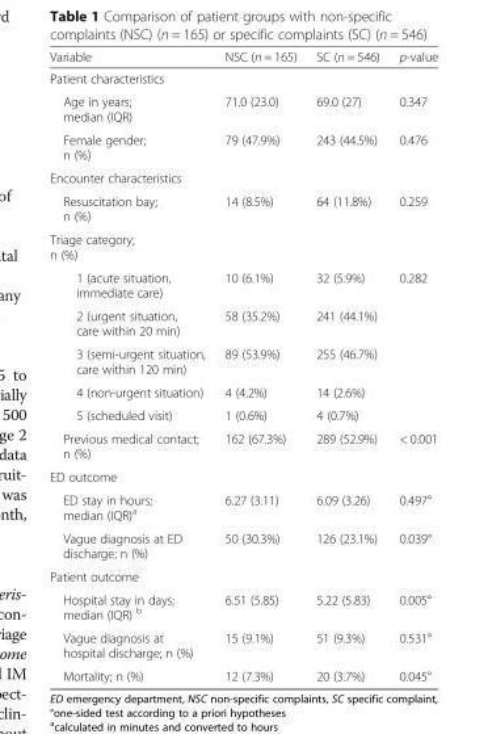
<table><thead><tr><td>Variable</td><td>NSC (n = 165)</td><td>SC (n = 546)</td><td>p-value</td></tr></thead><tbody><tr><td colspan="4">Patient characteristics</td></tr><tr><td>Age in years; median (IQR)</td><td>71.0 (23.0)</td><td>69.0 (27)</td><td>0.347</td></tr><tr><td>Female gender; n (%)</td><td>79 (47.9%)</td><td>243 (44.5%)</td><td>0.476</td></tr><tr><td colspan="4">Encounter characteristics</td></tr><tr><td>Resuscitation bay; n (%)</td><td>14 (8.5%)</td><td>64 (11.8%)</td><td>0.259</td></tr><tr><td colspan="4">Triage category; n (%)</td></tr><tr><td>1 (acute situation, immediate care)</td><td>10 (6.1%)</td><td>32 (5.9%)</td><td rowspan="5">0.282</td></tr><tr><td>2 (urgent situation, care within 20 min)</td><td>58 (35.2%)</td><td>241 (44.1%)</td></tr><tr><td>3 (semi-urgent situation, care within 120 min)</td><td>89 (53.9%)</td><td>255 (46.7%)</td></tr><tr><td>4 (non-urgent situation)</td><td>4 (4.2%)</td><td>14 (2.6%)</td></tr><tr><td>5 (scheduled visit)</td><td>1 (0.6%)</td><td>4 (0.7%)</td></tr><tr><td>Previous medical contact; n (%)</td><td>162 (67.3%)</td><td>289 (52.9%)</td><td>&lt; 0.001</td></tr><tr><td colspan="4">ED outcome</td></tr><tr><td>ED stay in hours; median (IQR)<sup>a</sup></td><td>6.27 (3.11)</td><td>6.09 (3.26)</td><td>0.497°</td></tr><tr><td>Vague diagnosis at ED discharge; n (%)</td><td>50 (30.3%)</td><td>126 (23.1%)</td><td>0.039°</td></tr><tr><td colspan="4">Patient outcome</td></tr><tr><td>Hospital stay in days; median (IQR) <sup>b</sup></td><td>6.51 (5.85)</td><td>5.22 (5.83)</td><td>0.005°</td></tr><tr><td>Vague diagnosis at hospital discharge; n (%)</td><td>15 (9.1%)</td><td>51 (9.3%)</td><td>0.531°</td></tr><tr><td>Mortality; n (%)</td><td>12 (7.3%)</td><td>20 (3.7%)</td><td>0.045°</td></tr></tbody></table>